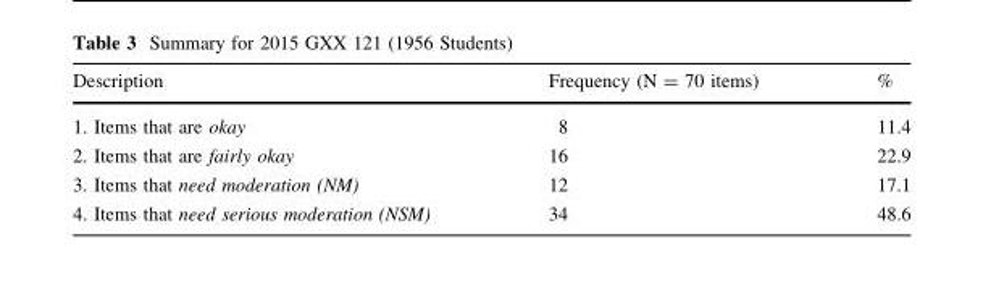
<table><thead><tr><td>Description</td><td>Frequency (N = 70 items)</td><td>%</td></tr></thead><tbody><tr><td>1. Items that are okay</td><td>8</td><td>11.4</td></tr><tr><td>2. Items that are fairly okay</td><td>16</td><td>22.9</td></tr><tr><td>3. Items that need moderation (NM)</td><td>12</td><td>17.1</td></tr><tr><td>4. Items that need serious moderation (NSM)</td><td>34</td><td>48.6</td></tr></tbody></table>